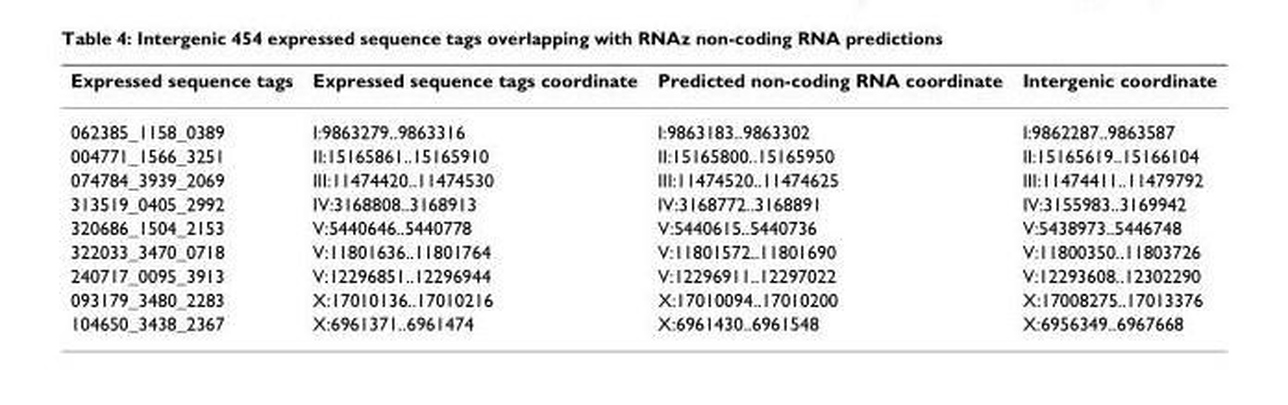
<table><thead><tr><td>Expressed sequence tags</td><td>Expressed sequence tags coordinate</td><td>Predicted non-coding RNA coordinate</td><td>Intergenic coordinate</td></tr></thead><tbody><tr><td>062385_1158_0389</td><td>I:9863279..9863316</td><td>I:9863183..9863302</td><td>I:9862287..9863587</td></tr><tr><td>004771_1566_3251</td><td>II:15165861..15165910</td><td>II:15165800..15165950</td><td>II:15165619..15166104</td></tr><tr><td>074784_3939_2069</td><td>III:11474420..11474530</td><td>III:11474520..11474625</td><td>III:11474411..11479792</td></tr><tr><td>313519_0405_2992</td><td>IV:3168808..3168913</td><td>IV:3168772..3168891</td><td>IV:3155983..3169942</td></tr><tr><td>320686_1504_2153</td><td>V:5440646..5440778</td><td>V:5440615..5440736</td><td>V:5438973..5446748</td></tr><tr><td>322033_3470_0718</td><td>V:11801636..11801764</td><td>V:11801572..11801690</td><td>V:11800350..11803726</td></tr><tr><td>240717_0095_3913</td><td>V:12296851..12296944</td><td>V:12296911..12297022</td><td>V:12293608..12302290</td></tr><tr><td>093179_3480_2283</td><td>X:17010136..17010216</td><td>X:17010094..17010200</td><td>X:17008275..17013376</td></tr><tr><td>104650_3438_2367</td><td>X:6961371..6961474</td><td>X:6961430..6961548</td><td>X:6956349..6967668</td></tr></tbody></table>